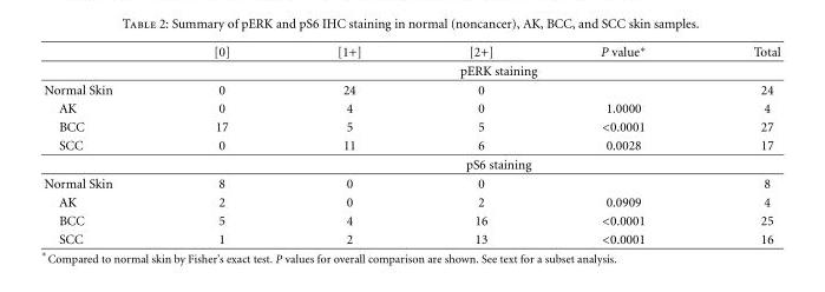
<table><thead><tr><td></td><td>[0]</td><td>[1+]</td><td>[2+]</td><td>P value∗</td><td>Total</td></tr></thead><tbody><tr><td></td><td colspan="5">pERK staining</td></tr><tr><td>Normal Skin</td><td>0</td><td>24</td><td>0</td><td></td><td>24</td></tr><tr><td>AK</td><td>0</td><td>4</td><td>0</td><td>1.0000</td><td>4</td></tr><tr><td>BCC</td><td>17</td><td>5</td><td>5</td><td>&lt;0.0001</td><td>27</td></tr><tr><td rowspan="2">SCC</td><td>0</td><td>11</td><td>6</td><td>0.0028</td><td>17</td></tr><tr><td colspan="5">pS6 staining</td></tr><tr><td>Normal Skin</td><td>8</td><td>0</td><td>0</td><td></td><td>8</td></tr><tr><td>AK</td><td>2</td><td>0</td><td>2</td><td>0.0909</td><td>4</td></tr><tr><td>BCC</td><td>5</td><td>4</td><td>16</td><td>&lt;0.0001</td><td>25</td></tr><tr><td>SCC</td><td>1</td><td>2</td><td>13</td><td>&lt;0.0001</td><td>16</td></tr></tbody></table>